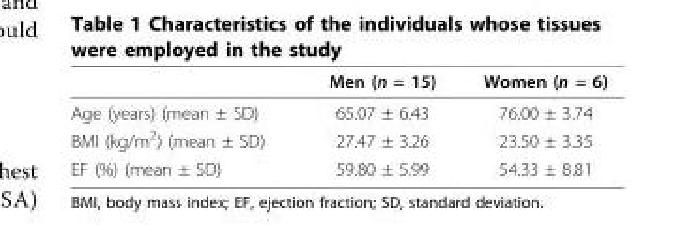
<table><thead><tr><td></td><td>Men (n = 15)</td><td>Women (n = 6)</td></tr></thead><tbody><tr><td>Age (years) (mean ± SD)</td><td>65.07 ± 6.43</td><td>76.00 ± 3.74</td></tr><tr><td>BMI (kg/m<sup>2</sup>) (mean ± SD)</td><td>27.47 ± 3.26</td><td>23.50 ± 3.35</td></tr><tr><td>EF (%) (mean ± SD)</td><td>59.80 ± 5.99</td><td>54.33 ± 8.81</td></tr></tbody></table>